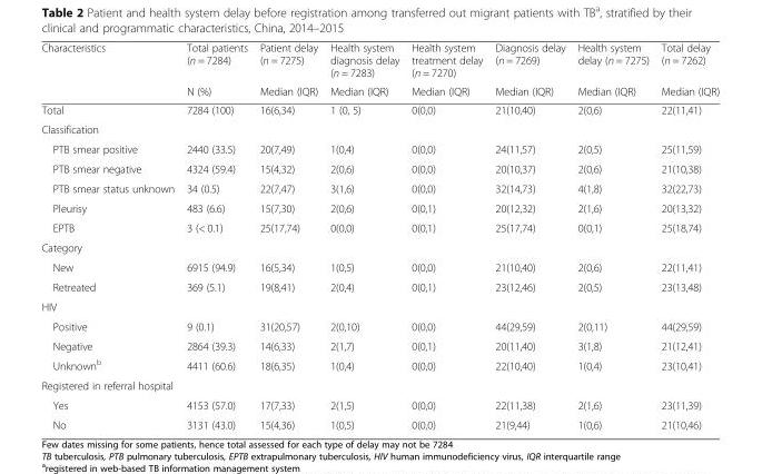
<table><thead><tr><td rowspan="2">Characteristics</td><td rowspan="2">Total patients (n = 7284) N (%)</td><td rowspan="2">Patient delay (n = 7275) Median (IQR)</td><td rowspan="2">Health system diagnosis delay (n = 7283) Median (IQR)</td><td rowspan="2">Health system treatment delay (n = 7270) Median (IQR)</td><td rowspan="2">Diagnosis delay (n = 7269) Median (IQR)</td><td rowspan="2">Health system delay (n = 7275) Median (IQR)</td><td rowspan="2">Total delay (n = 7262) Median (IQR)</td></tr><tr></tr></thead><tbody><tr><td>Total</td><td>7284 (100)</td><td>16(6,34)</td><td>1 (0, 5)</td><td>0(0,0)</td><td>21(10,40)</td><td>2(0,6)</td><td>22(11,41)</td></tr><tr><td colspan="8">Classification</td></tr><tr><td>PTB smear positive</td><td>2440 (33.5)</td><td>20(7,49)</td><td>1(0,4)</td><td>0(0,0)</td><td>24(11,57)</td><td>2(0,5)</td><td>25(11,59)</td></tr><tr><td>PTB smear negative</td><td>4324 (59.4)</td><td>15(4,32)</td><td>2(0,6)</td><td>0(0,0)</td><td>20(10,37)</td><td>2(0,6)</td><td>21(10,38)</td></tr><tr><td>PTB smear status unknown</td><td>34 (0.5)</td><td>22(7,47)</td><td>3(1,6)</td><td>0(0,0)</td><td>32(14,73)</td><td>4(1,8)</td><td>32(22,73)</td></tr><tr><td>Pleurisy</td><td>483 (6.6)</td><td>15(7,30)</td><td>2(0,6)</td><td>0(0,1)</td><td>20(12,32)</td><td>2(1,6)</td><td>20(13,32)</td></tr><tr><td>EPTB</td><td>3 (&lt; 0.1)</td><td>25(17,74)</td><td>0(0,0)</td><td>0(0,1)</td><td>25(17,74)</td><td>0(0,1)</td><td>25(18,74)</td></tr><tr><td colspan="8">Category</td></tr><tr><td>New</td><td>6915 (94.9)</td><td>16(5,34)</td><td>1(0,5)</td><td>0(0,0)</td><td>21(10,40)</td><td>2(0,6)</td><td>22(11,41)</td></tr><tr><td>Retreated</td><td>369 (5.1)</td><td>19(8,41)</td><td>2(0,4)</td><td>0(0,1)</td><td>23(12,46)</td><td>2(0,5)</td><td>23(13,48)</td></tr><tr><td colspan="8">HIV</td></tr><tr><td>Positive</td><td>9 (0.1)</td><td>31(20,57)</td><td>2(0,10)</td><td>0(0,0)</td><td>44(29,59)</td><td>2(0,11)</td><td>44(29,59)</td></tr><tr><td>Negative</td><td>2864 (39.3)</td><td>14(6,33)</td><td>2(1,7)</td><td>0(0,1)</td><td>20(11,40)</td><td>3(1,8)</td><td>21(12,41)</td></tr><tr><td>Unknown<sup>b</sup></td><td>4411 (60.6)</td><td>18(6,35)</td><td>1(0,4)</td><td>0(0,0)</td><td>22(10,40)</td><td>1(0,4)</td><td>23(10,41)</td></tr><tr><td colspan="8">Registered in referral hospital</td></tr><tr><td>Yes</td><td>4153 (57.0)</td><td>17(7,33)</td><td>2(1,5)</td><td>0(0,0)</td><td>22(11,38)</td><td>2(1,6)</td><td>23(11,39)</td></tr><tr><td>No</td><td>3131 (43.0)</td><td>15(4,36)</td><td>1(0,5)</td><td>0(0,0)</td><td>21(9,44)</td><td>1(0,6)</td><td>21(10,46)</td></tr></tbody></table>